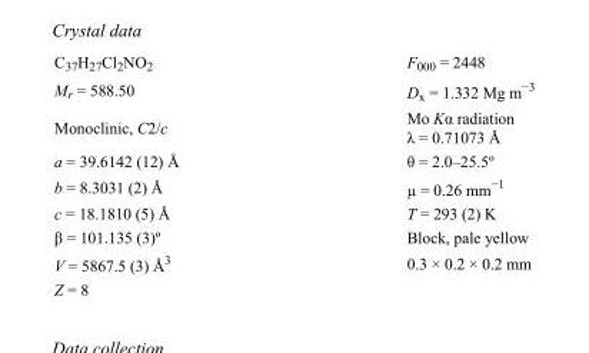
<table><tbody><tr><td>C<sub>37</sub>H<sub>27</sub>Cl<sub>2</sub>NO<sub>2</sub></td><td>F<sub>000</sub> = 2448</td></tr><tr><td>M<sub>r</sub> = 588.50</td><td>D<sub>x</sub> = 1.332 Mg m<sup>−3</sup></td></tr><tr><td>Monoclinic, C2/c</td><td>Mo Kα radiation λ = 0.71073 Å</td></tr><tr><td>a = 39.6142 (12) Å</td><td>θ = 2.0–25.5º</td></tr><tr><td>b = 8.3031 (2) Å</td><td>µ = 0.26 mm<sup>−1</sup></td></tr><tr><td>c = 18.1810 (5) Å</td><td>T = 293 (2) K</td></tr><tr><td>β = 101.135 (3)º</td><td>Block, pale yellow</td></tr><tr><td>V = 5867.5 (3) Å<sup>3</sup></td><td>0.3 × 0.2 × 0.2 mm</td></tr><tr><td>Z = 8</td><td></td></tr></tbody></table>